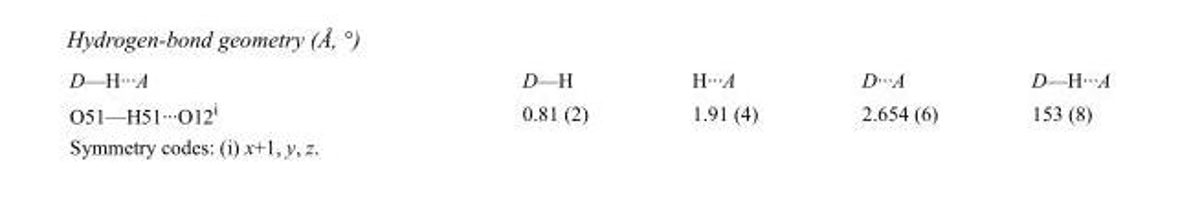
<table><tbody><tr><td>D—H···A</td><td>D—H</td><td>H···A</td><td>D···A</td><td>D—H···A</td></tr><tr><td>O51—H51···O12<sup>i</sup></td><td>0.81 (2)</td><td>1.91 (4)</td><td>2.654 (6)</td><td>153 (8)</td></tr></tbody></table>